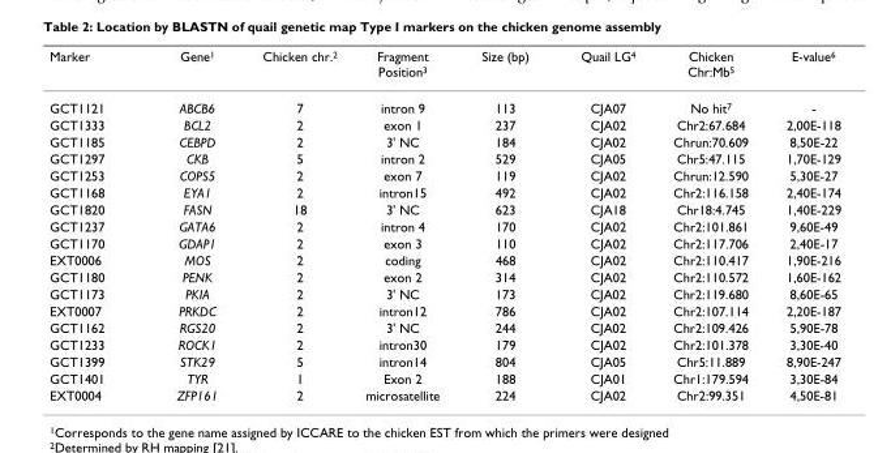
<table><thead><tr><td>Marker</td><td>Gene1</td><td>Chicken chr.2</td><td>Fragment Position3</td><td>Size (bp)</td><td>Quail LG4</td><td>Chicken Chr:Mb5</td><td>E-value6</td></tr></thead><tbody><tr><td>GCT1121</td><td>ABCB6</td><td>7</td><td>intron 9</td><td>113</td><td>CJA07</td><td>No hit7</td><td>-</td></tr><tr><td>GCT1333</td><td>BCL2</td><td>2</td><td>exon 1</td><td>237</td><td>CJA02</td><td>Chr2:67.684</td><td>2,00E-118</td></tr><tr><td>GCT1185</td><td>CEBPD</td><td>2</td><td>3&#x27; NC</td><td>184</td><td>CJA02</td><td>Chrun:70.609</td><td>8,50E-22</td></tr><tr><td>GCT1297</td><td>CKB</td><td>5</td><td>intron 2</td><td>529</td><td>CJA05</td><td>Chr5:47.115</td><td>1,70E-129</td></tr><tr><td>GCT1253</td><td>COPS5</td><td>2</td><td>exon 7</td><td>119</td><td>CJA02</td><td>Chrun:12.590</td><td>5,30E-27</td></tr><tr><td>GCT1168</td><td>EYA1</td><td>2</td><td>intron15</td><td>492</td><td>CJA02</td><td>Chr2:116.158</td><td>2,40E-174</td></tr><tr><td>GCT1820</td><td>FASN</td><td>18</td><td>3&#x27; NC</td><td>623</td><td>CJA18</td><td>Chr18:4.745</td><td>1,40E-229</td></tr><tr><td>GCT1237</td><td>GATA6</td><td>2</td><td>intron 4</td><td>170</td><td>CJA02</td><td>Chr2:101.861</td><td>9,60E-49</td></tr><tr><td>GCT1170</td><td>GDAP1</td><td>2</td><td>exon 3</td><td>110</td><td>CJA02</td><td>Chr2:117.706</td><td>2,40E-17</td></tr><tr><td>EXT0006</td><td>MOS</td><td>2</td><td>coding</td><td>468</td><td>CJA02</td><td>Chr2:110.417</td><td>1,90E-216</td></tr><tr><td>GCT1180</td><td>PENK</td><td>2</td><td>exon 2</td><td>314</td><td>CJA02</td><td>Chr2:110.572</td><td>1,60E-162</td></tr><tr><td>GCT1173</td><td>PKIA</td><td>2</td><td>3&#x27; NC</td><td>173</td><td>CJA02</td><td>Chr2:119.680</td><td>8,60E-65</td></tr><tr><td>EXT0007</td><td>PRKDC</td><td>2</td><td>intron12</td><td>786</td><td>CJA02</td><td>Chr2:107.114</td><td>2,20E-187</td></tr><tr><td>GCT1162</td><td>RGS20</td><td>2</td><td>3&#x27; NC</td><td>244</td><td>CJA02</td><td>Chr2:109.426</td><td>5,90E-78</td></tr><tr><td>GCT1233</td><td>ROCK1</td><td>2</td><td>intron30</td><td>179</td><td>CJA02</td><td>Chr2:101.378</td><td>3,30E-40</td></tr><tr><td>GCT1399</td><td>STK29</td><td>5</td><td>intron14</td><td>804</td><td>CJA05</td><td>Chr5:11.889</td><td>8,90E-247</td></tr><tr><td>GCT1401</td><td>TYR</td><td>1</td><td>Exon 2</td><td>188</td><td>CJA01</td><td>Chr1:179.594</td><td>3,30E-84</td></tr><tr><td>EXT0004</td><td>ZFP161</td><td>2</td><td>microsatellite</td><td>224</td><td>CJA02</td><td>Chr2:99.351</td><td>4,50E-81</td></tr></tbody></table>